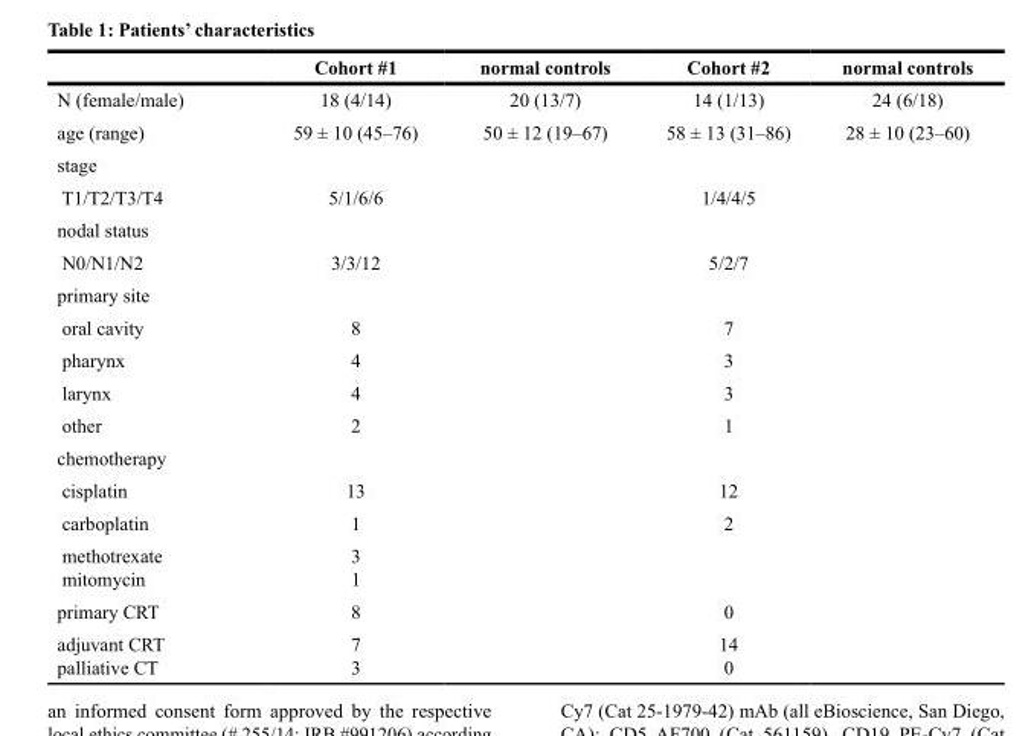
<table><thead><tr><td></td><td>Cohort #1</td><td>normal controls</td><td>Cohort #2</td><td>normal controls</td></tr></thead><tbody><tr><td>N (female/male)</td><td>18 (4/14)</td><td>20 (13/7)</td><td>14 (1/13)</td><td>24 (6/18)</td></tr><tr><td>age (range)</td><td>59 ± 10 (45–76)</td><td>50 ± 12 (19–67)</td><td>58 ± 13 (31–86)</td><td>28 ± 10 (23–60)</td></tr><tr><td colspan="5">stage</td></tr><tr><td>T1/T2/T3/T4</td><td>5/1/6/6</td><td></td><td>1/4/4/5</td><td></td></tr><tr><td colspan="5">nodal status</td></tr><tr><td>N0/N1/N2</td><td>3/3/12</td><td></td><td>5/2/7</td><td></td></tr><tr><td colspan="5">primary site</td></tr><tr><td>oral cavity</td><td>8</td><td></td><td>7</td><td></td></tr><tr><td>pharynx</td><td>4</td><td></td><td>3</td><td></td></tr><tr><td>larynx</td><td>4</td><td></td><td>3</td><td></td></tr><tr><td>other</td><td>2</td><td></td><td>1</td><td></td></tr><tr><td colspan="5">chemotherapy</td></tr><tr><td>cisplatin</td><td>13</td><td></td><td>12</td><td></td></tr><tr><td>carboplatin</td><td>1</td><td></td><td>2</td><td></td></tr><tr><td>methotrexate mitomycin</td><td>3 1</td><td></td><td></td><td></td></tr><tr><td>primary CRT</td><td>8</td><td></td><td>0</td><td></td></tr><tr><td>adjuvant CRT palliative CT</td><td>7 3</td><td></td><td>14 0</td><td></td></tr></tbody></table>